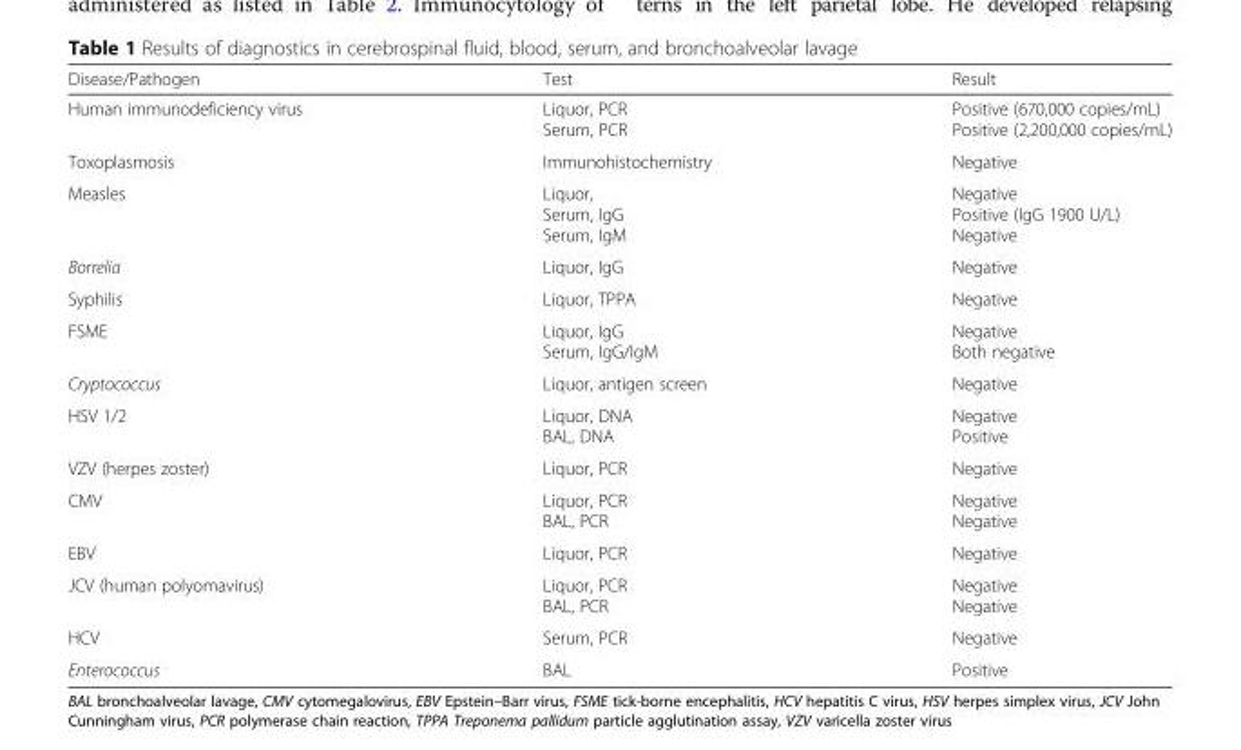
<table><thead><tr><td>Disease/Pathogen</td><td>Test</td><td>Result</td></tr></thead><tbody><tr><td>Human immunodeficiency virus</td><td>Liquor, PCR Serum, PCR</td><td>Positive (670,000 copies/mL) Positive (2,200,000 copies/mL)</td></tr><tr><td>Toxoplasmosis</td><td>Immunohistochemistry</td><td>Negative</td></tr><tr><td>Measles</td><td>Liquor, Serum, IgG Serum, IgM</td><td>Negative Positive (IgG 1900 U/L) Negative</td></tr><tr><td>Borrelia</td><td>Liquor, IgG</td><td>Negative</td></tr><tr><td>Syphilis</td><td>Liquor, TPPA</td><td>Negative</td></tr><tr><td>FSME</td><td>Liquor, IgG Serum, IgG/IgM</td><td>Negative Both negative</td></tr><tr><td>Cryptococcus</td><td>Liquor, antigen screen</td><td>Negative</td></tr><tr><td>HSV 1/2</td><td>Liquor, DNA BAL, DNA</td><td>Negative Positive</td></tr><tr><td>VZV (herpes zoster)</td><td>Liquor, PCR</td><td>Negative</td></tr><tr><td>CMV</td><td>Liquor, PCR BAL, PCR</td><td>Negative Negative</td></tr><tr><td>EBV</td><td>Liquor, PCR</td><td>Negative</td></tr><tr><td>JCV (human polyomavirus)</td><td>Liquor, PCR BAL, PCR</td><td>Negative Negative</td></tr><tr><td>HCV</td><td>Serum, PCR</td><td>Negative</td></tr><tr><td>Enterococcus</td><td>BAL</td><td>Positive</td></tr></tbody></table>